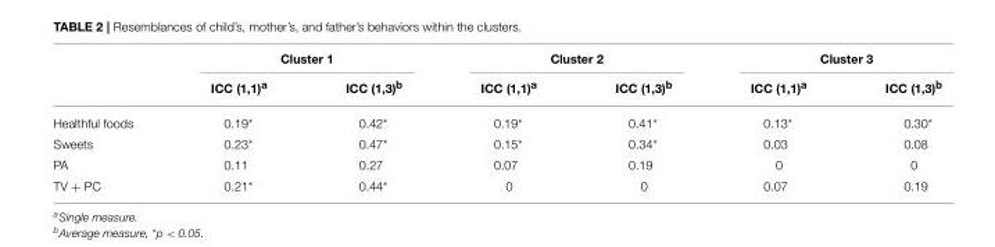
<table><thead><tr><td rowspan="2"></td><td colspan="2">Cluster 1</td><td colspan="2">Cluster 2</td><td colspan="2">Cluster 3</td></tr><tr><td>ICC (1,1)<sup>a</sup></td><td>ICC (1,3)<sup>b</sup></td><td>ICC (1,1)<sup>a</sup></td><td>ICC (1,3)<sup>b</sup></td><td>ICC (1,1)<sup>a</sup></td><td>ICC (1,3)<sup>b</sup></td></tr></thead><tbody><tr><td>Healthful foods</td><td>0.19*</td><td>0.42*</td><td>0.19*</td><td>0.41*</td><td>0.13*</td><td>0.30*</td></tr><tr><td>Sweets</td><td>0.23*</td><td>0.47*</td><td>0.15*</td><td>0.34*</td><td>0.03</td><td>0.08</td></tr><tr><td>PA</td><td>0.11</td><td>0.27</td><td>0.07</td><td>0.19</td><td>0</td><td>0</td></tr><tr><td>TV + PC</td><td>0.21*</td><td>0.44*</td><td>0</td><td>0</td><td>0.07</td><td>0.19</td></tr></tbody></table>